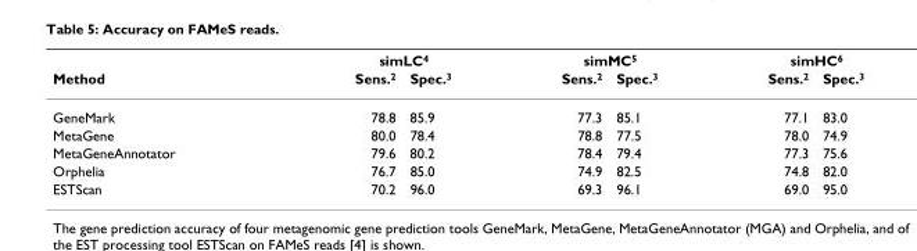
<table><thead><tr><td rowspan="2">Method</td><td colspan="2">simLC<sup>4</sup></td><td colspan="2">simMC<sup>5</sup></td><td colspan="2">simHC<sup>6</sup></td></tr><tr><td>Sens.<sup>2</sup></td><td>Spec.<sup>3</sup></td><td>Sens.<sup>2</sup></td><td>Spec.<sup>3</sup></td><td>Sens.<sup>2</sup></td><td>Spec.<sup>3</sup></td></tr></thead><tbody><tr><td>GeneMark</td><td>78.8</td><td>85.9</td><td>77.3</td><td>85.1</td><td>77.1</td><td>83.0</td></tr><tr><td>MetaGene</td><td>80.0</td><td>78.4</td><td>78.8</td><td>77.5</td><td>78.0</td><td>74.9</td></tr><tr><td>MetaGeneAnnotator</td><td>79.6</td><td>80.2</td><td>78.4</td><td>79.4</td><td>77.3</td><td>75.6</td></tr><tr><td>Orphelia</td><td>76.7</td><td>85.0</td><td>74.9</td><td>82.5</td><td>74.8</td><td>82.0</td></tr><tr><td>ESTScan</td><td>70.2</td><td>96.0</td><td>69.3</td><td>96.1</td><td>69.0</td><td>95.0</td></tr></tbody></table>